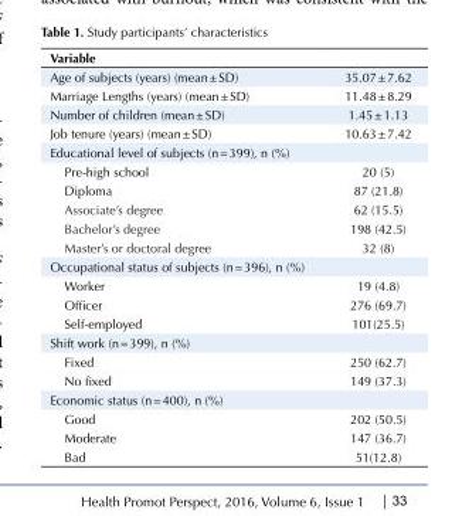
<table><tbody><tr><td colspan="2">Variable</td></tr><tr><td>Age of subjects (years) (mean ± SD)</td><td>35.07 ± 7.62</td></tr><tr><td>Marriage Lengths (years) (mean ± SD)</td><td>11.48 ± 8.29</td></tr><tr><td>Number of children (mean ± SD)</td><td>1.45 ± 1.13</td></tr><tr><td>Job tenure (years) (mean ± SD)</td><td>10.63 ± 7.42</td></tr><tr><td colspan="2">Educational level of subjects (n = 399), n (%)</td></tr><tr><td>Pre-high school</td><td>20 (5)</td></tr><tr><td>Diploma</td><td>87 (21.8)</td></tr><tr><td>Associate’s degree</td><td>62 (15.5)</td></tr><tr><td>Bachelor’s degree</td><td>198 (42.5)</td></tr><tr><td>Master’s or doctoral degree</td><td>32 (8)</td></tr><tr><td colspan="2">Occupational status of subjects (n = 396), n (%)</td></tr><tr><td>Worker</td><td>19 (4.8)</td></tr><tr><td>Officer</td><td>276 (69.7)</td></tr><tr><td>Self-employed</td><td>101(25.5)</td></tr><tr><td colspan="2">Shift work (n = 399), n (%)</td></tr><tr><td>Fixed</td><td>250 (62.7)</td></tr><tr><td>No fixed</td><td>149 (37.3)</td></tr><tr><td colspan="2">Economic status (n = 400), n (%)</td></tr><tr><td>Good</td><td>202 (50.5)</td></tr><tr><td>Moderate</td><td>147 (36.7)</td></tr><tr><td>Bad</td><td>51(12.8)</td></tr></tbody></table>